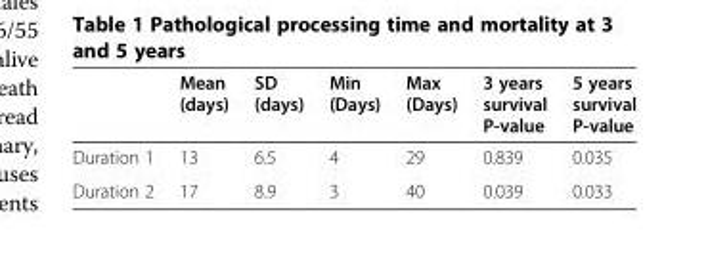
<table><thead><tr><td></td><td>Mean (days)</td><td>SD (days)</td><td>Min (Days)</td><td>Max (Days)</td><td>3 years survival P-value</td><td>5 years survival P-value</td></tr></thead><tbody><tr><td>Duration 1</td><td>13</td><td>6.5</td><td>4</td><td>29</td><td>0.839</td><td>0.035</td></tr><tr><td>Duration 2</td><td>17</td><td>8.9</td><td>3</td><td>40</td><td>0.039</td><td>0.033</td></tr></tbody></table>